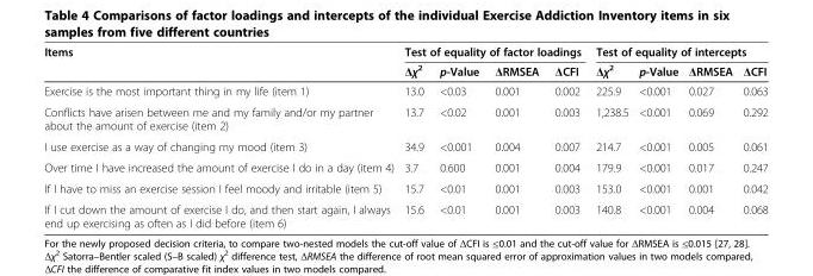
<table><thead><tr><td rowspan="2">Items</td><td colspan="4">Test of equality of factor loadings</td><td colspan="4">Test of equality of intercepts</td></tr><tr><td>Δχ<sup>2</sup></td><td>p-Value</td><td>ΔRMSEA</td><td>ΔCFI</td><td>Δχ<sup>2</sup></td><td>p-Value</td><td>ΔRMSEA</td><td>ΔCFI</td></tr></thead><tbody><tr><td>Exercise is the most important thing in my life (item 1)</td><td>13.0</td><td>&lt;0.03</td><td>0.001</td><td>0.002</td><td>225.9</td><td>&lt;0.001</td><td>0.027</td><td>0.063</td></tr><tr><td>Conflicts have arisen between me and my family and/or my partner about the amount of exercise (item 2)</td><td>13.7</td><td>&lt;0.02</td><td>0.001</td><td>0.003</td><td>1,238.5</td><td>&lt;0.001</td><td>0.069</td><td>0.292</td></tr><tr><td>I use exercise as a way of changing my mood (item 3)</td><td>34.9</td><td>&lt;0.001</td><td>0.004</td><td>0.007</td><td>214.7</td><td>&lt;0.001</td><td>0.005</td><td>0.061</td></tr><tr><td>Over time I have increased the amount of exercise I do in a day (item 4)</td><td>3.7</td><td>0.600</td><td>0.001</td><td>0.004</td><td>179.9</td><td>&lt;0.001</td><td>0.017</td><td>0.247</td></tr><tr><td>If I have to miss an exercise session I feel moody and irritable (item 5)</td><td>15.7</td><td>&lt;0.01</td><td>0.001</td><td>0.003</td><td>153.0</td><td>&lt;0.001</td><td>0.001</td><td>0.042</td></tr><tr><td>If I cut down the amount of exercise I do, and then start again, I always end up exercising as often as I did before (item 6)</td><td>15.6</td><td>&lt;0.01</td><td>0.001</td><td>0.003</td><td>140.8</td><td>&lt;0.001</td><td>0.004</td><td>0.068</td></tr></tbody></table>